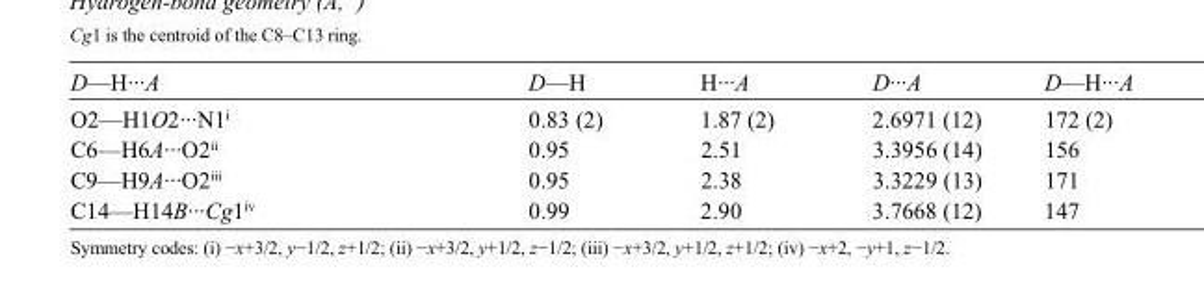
<table><tbody><tr><td>D—H···A</td><td>D—H</td><td>H···A</td><td>D···A</td><td>D—H···A</td></tr><tr><td>O2—H1O2···N1<sup>i</sup></td><td>0.83 (2)</td><td>1.87 (2)</td><td>2.6971 (12)</td><td>172 (2)</td></tr><tr><td>C6—H6A···O2<sup>ii</sup></td><td>0.95</td><td>2.51</td><td>3.3956 (14)</td><td>156</td></tr><tr><td>C9—H9A···O2<sup>iii</sup></td><td>0.95</td><td>2.38</td><td>3.3229 (13)</td><td>171</td></tr><tr><td>C14—H14B···Cg1<sup>iv</sup></td><td>0.99</td><td>2.90</td><td>3.7668 (12)</td><td>147</td></tr></tbody></table>